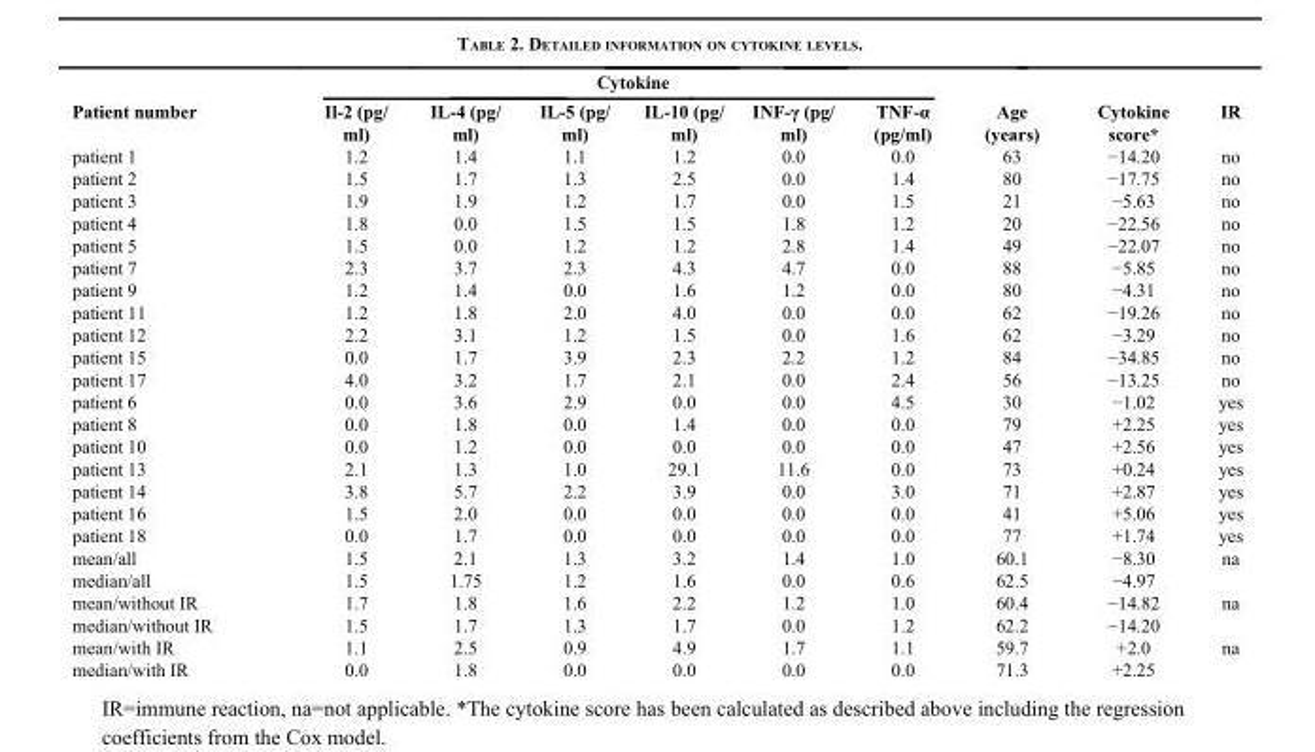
<table><thead><tr><td rowspan="2">Patient number</td><td colspan="6">Cytokine</td><td rowspan="2">Age (years)</td><td rowspan="2">Cytokine score*</td><td rowspan="2">IR</td></tr><tr><td>Il-2 (pg/ ml)</td><td>IL-4 (pg/ ml)</td><td>IL-5 (pg/ ml)</td><td>IL-10 (pg/ ml)</td><td>INF-γ (pg/ ml)</td><td>TNF-α (pg/ml)</td></tr></thead><tbody><tr><td>patient 1</td><td>1.2</td><td>1.4</td><td>1.1</td><td>1.2</td><td>0.0</td><td>0.0</td><td>63</td><td>−14.20</td><td>no</td></tr><tr><td>patient 2</td><td>1.5</td><td>1.7</td><td>1.3</td><td>2.5</td><td>0.0</td><td>1.4</td><td>80</td><td>−17.75</td><td>no</td></tr><tr><td>patient 3</td><td>1.9</td><td>1.9</td><td>1.2</td><td>1.7</td><td>0.0</td><td>1.5</td><td>21</td><td>−5.63</td><td>no</td></tr><tr><td>patient 4</td><td>1.8</td><td>0.0</td><td>1.5</td><td>1.5</td><td>1.8</td><td>1.2</td><td>20</td><td>−22.56</td><td>no</td></tr><tr><td>patient 5</td><td>1.5</td><td>0.0</td><td>1.2</td><td>1.2</td><td>2.8</td><td>1.4</td><td>49</td><td>−22.07</td><td>no</td></tr><tr><td>patient 7</td><td>2.3</td><td>3.7</td><td>2.3</td><td>4.3</td><td>4.7</td><td>0.0</td><td>88</td><td>−5.85</td><td>no</td></tr><tr><td>patient 9</td><td>1.2</td><td>1.4</td><td>0.0</td><td>1.6</td><td>1.2</td><td>0.0</td><td>80</td><td>−4.31</td><td>no</td></tr><tr><td>patient 11</td><td>1.2</td><td>1.8</td><td>2.0</td><td>4.0</td><td>0.0</td><td>0.0</td><td>62</td><td>−19.26</td><td>no</td></tr><tr><td>patient 12</td><td>2.2</td><td>3.1</td><td>1.2</td><td>1.5</td><td>0.0</td><td>1.6</td><td>62</td><td>−3.29</td><td>no</td></tr><tr><td>patient 15</td><td>0.0</td><td>1.7</td><td>3.9</td><td>2.3</td><td>2.2</td><td>1.2</td><td>84</td><td>−34.85</td><td>no</td></tr><tr><td>patient 17</td><td>4.0</td><td>3.2</td><td>1.7</td><td>2.1</td><td>0.0</td><td>2.4</td><td>56</td><td>−13.25</td><td>no</td></tr><tr><td>patient 6</td><td>0.0</td><td>3.6</td><td>2.9</td><td>0.0</td><td>0.0</td><td>4.5</td><td>30</td><td>−1.02</td><td>yes</td></tr><tr><td>patient 8</td><td>0.0</td><td>1.8</td><td>0.0</td><td>1.4</td><td>0.0</td><td>0.0</td><td>79</td><td>+2.25</td><td>yes</td></tr><tr><td>patient 10</td><td>0.0</td><td>1.2</td><td>0.0</td><td>0.0</td><td>0.0</td><td>0.0</td><td>47</td><td>+2.56</td><td>yes</td></tr><tr><td>patient 13</td><td>2.1</td><td>1.3</td><td>1.0</td><td>29.1</td><td>11.6</td><td>0.0</td><td>73</td><td>+0.24</td><td>yes</td></tr><tr><td>patient 14</td><td>3.8</td><td>5.7</td><td>2.2</td><td>3.9</td><td>0.0</td><td>3.0</td><td>71</td><td>+2.87</td><td>yes</td></tr><tr><td>patient 16</td><td>1.5</td><td>2.0</td><td>0.0</td><td>0.0</td><td>0.0</td><td>0.0</td><td>41</td><td>+5.06</td><td>yes</td></tr><tr><td>patient 18</td><td>0.0</td><td>1.7</td><td>0.0</td><td>0.0</td><td>0.0</td><td>0.0</td><td>77</td><td>+1.74</td><td>yes</td></tr><tr><td>mean/all</td><td>1.5</td><td>2.1</td><td>1.3</td><td>3.2</td><td>1.4</td><td>1.0</td><td>60.1</td><td>−8.30</td><td>na</td></tr><tr><td>median/all</td><td>1.5</td><td>1.75</td><td>1.2</td><td>1.6</td><td>0.0</td><td>0.6</td><td>62.5</td><td>−4.97</td><td></td></tr><tr><td>mean/without IR</td><td>1.7</td><td>1.8</td><td>1.6</td><td>2.2</td><td>1.2</td><td>1.0</td><td>60.4</td><td>−14.82</td><td>na</td></tr><tr><td>median/without IR</td><td>1.5</td><td>1.7</td><td>1.3</td><td>1.7</td><td>0.0</td><td>1.2</td><td>62.2</td><td>−14.20</td><td></td></tr><tr><td>mean/with IR</td><td>1.1</td><td>2.5</td><td>0.9</td><td>4.9</td><td>1.7</td><td>1.1</td><td>59.7</td><td>+2.0</td><td>na</td></tr><tr><td>median/with IR</td><td>0.0</td><td>1.8</td><td>0.0</td><td>0.0</td><td>0.0</td><td>0.0</td><td>71.3</td><td>+2.25</td><td></td></tr></tbody></table>